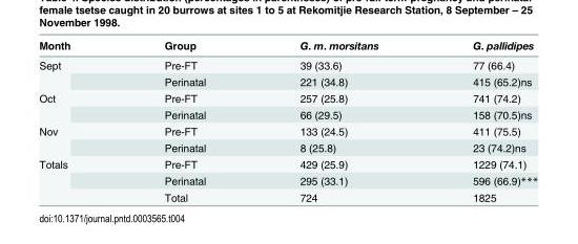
<table><thead><tr><td>Month</td><td>Group</td><td>G. m. morsitans</td><td>G. pallidipes</td></tr></thead><tbody><tr><td rowspan="2">Sept</td><td>Pre-FT</td><td>39 (33.6)</td><td>77 (66.4)</td></tr><tr><td>Perinatal</td><td>221 (34.8)</td><td>415 (65.2)ns</td></tr><tr><td rowspan="2">Oct</td><td>Pre-FT</td><td>257 (25.8)</td><td>741 (74.2)</td></tr><tr><td>Perinatal</td><td>66 (29.5)</td><td>158 (70.5)ns</td></tr><tr><td rowspan="2">Nov</td><td>Pre-FT</td><td>133 (24.5)</td><td>411 (75.5)</td></tr><tr><td>Perinatal</td><td>8 (25.8)</td><td>23 (74.2)ns</td></tr><tr><td rowspan="3">Totals</td><td>Pre-FT</td><td>429 (25.9)</td><td>1229 (74.1)</td></tr><tr><td>Perinatal</td><td>295 (33.1)</td><td>596 (66.9)***</td></tr><tr><td>Total</td><td>724</td><td>1825</td></tr></tbody></table>